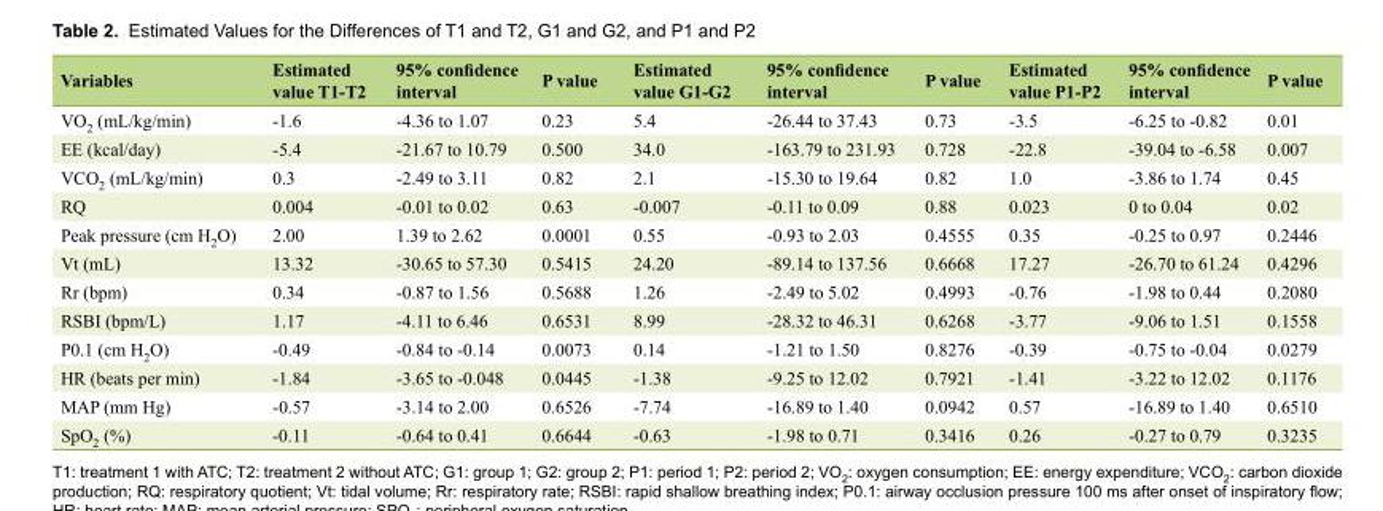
<table><thead><tr><td>Variables</td><td>Estimated value T1-T2</td><td>95% confidence interval</td><td>P value</td><td>Estimated value G1-G2</td><td>95% confidence interval</td><td>P value</td><td>Estimated value P1-P2</td><td>95% confidence interval</td><td>P value</td></tr></thead><tbody><tr><td>VO<sub>2</sub> (mL/kg/min)</td><td>-1.6</td><td>-4.36 to 1.07</td><td>0.23</td><td>5.4</td><td>-26.44 to 37.43</td><td>0.73</td><td>-3.5</td><td>-6.25 to -0.82</td><td>0.01</td></tr><tr><td>EE (kcal/day)</td><td>-5.4</td><td>-21.67 to 10.79</td><td>0.500</td><td>34.0</td><td>-163.79 to 231.93</td><td>0.728</td><td>-22.8</td><td>-39.04 to -6.58</td><td>0.007</td></tr><tr><td>VCO<sub>2</sub> (mL/kg/min)</td><td>0.3</td><td>-2.49 to 3.11</td><td>0.82</td><td>2.1</td><td>-15.30 to 19.64</td><td>0.82</td><td>1.0</td><td>-3.86 to 1.74</td><td>0.45</td></tr><tr><td>RQ</td><td>0.004</td><td>-0.01 to 0.02</td><td>0.63</td><td>-0.007</td><td>-0.11 to 0.09</td><td>0.88</td><td>0.023</td><td>0 to 0.04</td><td>0.02</td></tr><tr><td>Peak pressure (cm H<sub>2</sub>O)</td><td>2.00</td><td>1.39 to 2.62</td><td>0.0001</td><td>0.55</td><td>-0.93 to 2.03</td><td>0.4555</td><td>0.35</td><td>-0.25 to 0.97</td><td>0.2446</td></tr><tr><td>Vt (mL)</td><td>13.32</td><td>-30.65 to 57.30</td><td>0.5415</td><td>24.20</td><td>-89.14 to 137.56</td><td>0.6668</td><td>17.27</td><td>-26.70 to 61.24</td><td>0.4296</td></tr><tr><td>Rr (bpm)</td><td>0.34</td><td>-0.87 to 1.56</td><td>0.5688</td><td>1.26</td><td>-2.49 to 5.02</td><td>0.4993</td><td>-0.76</td><td>-1.98 to 0.44</td><td>0.2080</td></tr><tr><td>RSBI (bpm/L)</td><td>1.17</td><td>-4.11 to 6.46</td><td>0.6531</td><td>8.99</td><td>-28.32 to 46.31</td><td>0.6268</td><td>-3.77</td><td>-9.06 to 1.51</td><td>0.1558</td></tr><tr><td>P0.1 (cm H<sub>2</sub>O)</td><td>-0.49</td><td>-0.84 to -0.14</td><td>0.0073</td><td>0.14</td><td>-1.21 to 1.50</td><td>0.8276</td><td>-0.39</td><td>-0.75 to -0.04</td><td>0.0279</td></tr><tr><td>HR (beats per min)</td><td>-1.84</td><td>-3.65 to -0.048</td><td>0.0445</td><td>-1.38</td><td>-9.25 to 12.02</td><td>0.7921</td><td>-1.41</td><td>-3.22 to 12.02</td><td>0.1176</td></tr><tr><td>MAP (mm Hg)</td><td>-0.57</td><td>-3.14 to 2.00</td><td>0.6526</td><td>-7.74</td><td>-16.89 to 1.40</td><td>0.0942</td><td>0.57</td><td>-16.89 to 1.40</td><td>0.6510</td></tr><tr><td>SpO<sub>2</sub> (%)</td><td>-0.11</td><td>-0.64 to 0.41</td><td>0.6644</td><td>-0.63</td><td>-1.98 to 0.71</td><td>0.3416</td><td>0.26</td><td>-0.27 to 0.79</td><td>0.3235</td></tr></tbody></table>